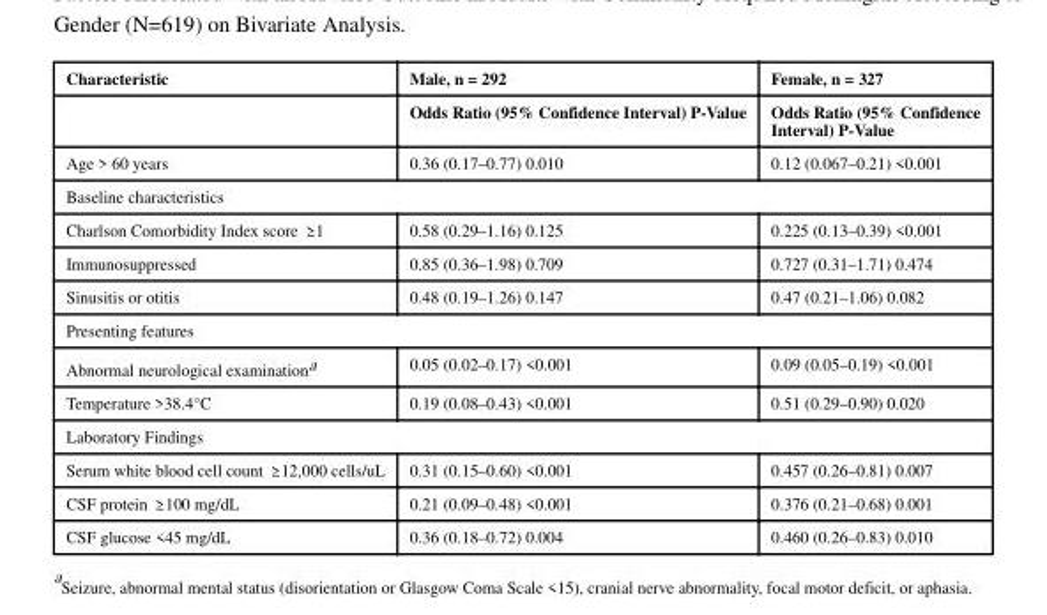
<table><thead><tr><td rowspan="2">Characteristic</td><td rowspan="2">Male, n = 292 Odds Ratio (95% Confidence Interval) P-Value</td><td rowspan="2">Female, n = 327 Odds Ratio (95% Confidence Interval) P-Value</td></tr><tr></tr></thead><tbody><tr><td>Age &gt; 60 years</td><td>0.36 (0.17–0.77) 0.010</td><td>0.12 (0.067–0.21) &lt;0.001</td></tr><tr><td colspan="3">Baseline characteristics</td></tr><tr><td>Charlson Comorbidity Index score ≥ 1</td><td>0.58 (0.29–1.16) 0.125</td><td>0.225 (0.13–0.39) &lt;0.001</td></tr><tr><td>Immunosuppressed</td><td>0.85 (0.36–1.98) 0.709</td><td>0.727 (0.31–1.71) 0.474</td></tr><tr><td>Sinusitis or otitis</td><td>0.48 (0.19–1.26) 0.147</td><td>0.47 (0.21–1.06) 0.082</td></tr><tr><td colspan="3">Presenting features</td></tr><tr><td>Abnormal neurological examination<sup>a</sup></td><td>0.05 (0.02–0.17) &lt;0.001</td><td>0.09 (0.05–0.19) &lt;0.001</td></tr><tr><td>Temperature &gt;38.4°C</td><td>0.19 (0.08–0.43) &lt;0.001</td><td>0.51 (0.29–0.90) 0.020</td></tr><tr><td colspan="3">Laboratory Findings</td></tr><tr><td>Serum white blood cell count ≥ 12,000 cells/uL</td><td>0.31 (0.15–0.60) &lt;0.001</td><td>0.457 (0.26–0.81) 0.007</td></tr><tr><td>CSF protein ≥ 100 mg/dL</td><td>0.21 (0.09–0.48) &lt;0.001</td><td>0.376 (0.21–0.68) 0.001</td></tr><tr><td>CSF glucose &lt;45 mg/dL</td><td>0.36 (0.18–0.72) 0.004</td><td>0.460 (0.26–0.83) 0.010</td></tr></tbody></table>